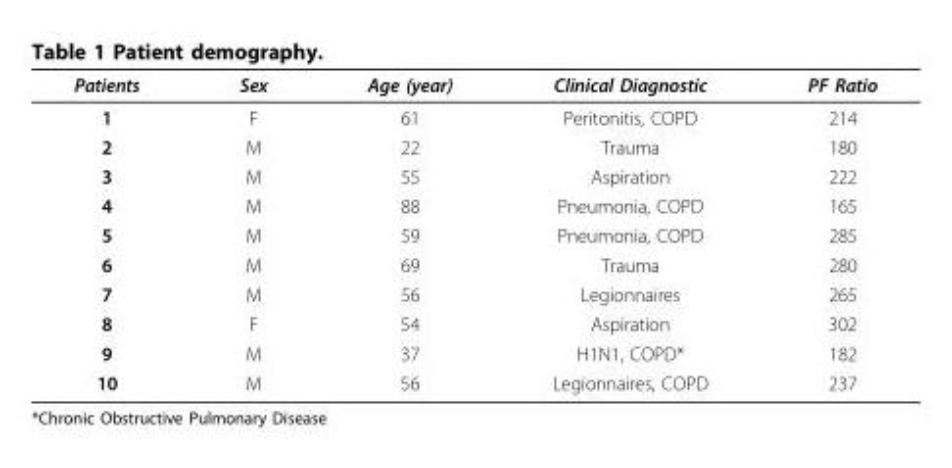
<table><thead><tr><td>Patients</td><td>Sex</td><td>Age (year)</td><td>Clinical Diagnostic</td><td>PF Ratio</td></tr></thead><tbody><tr><td>1</td><td>F</td><td>61</td><td>Peritonitis, COPD</td><td>214</td></tr><tr><td>2</td><td>M</td><td>22</td><td>Trauma</td><td>180</td></tr><tr><td>3</td><td>M</td><td>55</td><td>Aspiration</td><td>222</td></tr><tr><td>4</td><td>M</td><td>88</td><td>Pneumonia, COPD</td><td>165</td></tr><tr><td>5</td><td>M</td><td>59</td><td>Pneumonia, COPD</td><td>285</td></tr><tr><td>6</td><td>M</td><td>69</td><td>Trauma</td><td>280</td></tr><tr><td>7</td><td>M</td><td>56</td><td>Legionnaires</td><td>265</td></tr><tr><td>8</td><td>F</td><td>54</td><td>Aspiration</td><td>302</td></tr><tr><td>9</td><td>M</td><td>37</td><td>H1N1, COPD*</td><td>182</td></tr><tr><td>10</td><td>M</td><td>56</td><td>Legionnaires, COPD</td><td>237</td></tr></tbody></table>